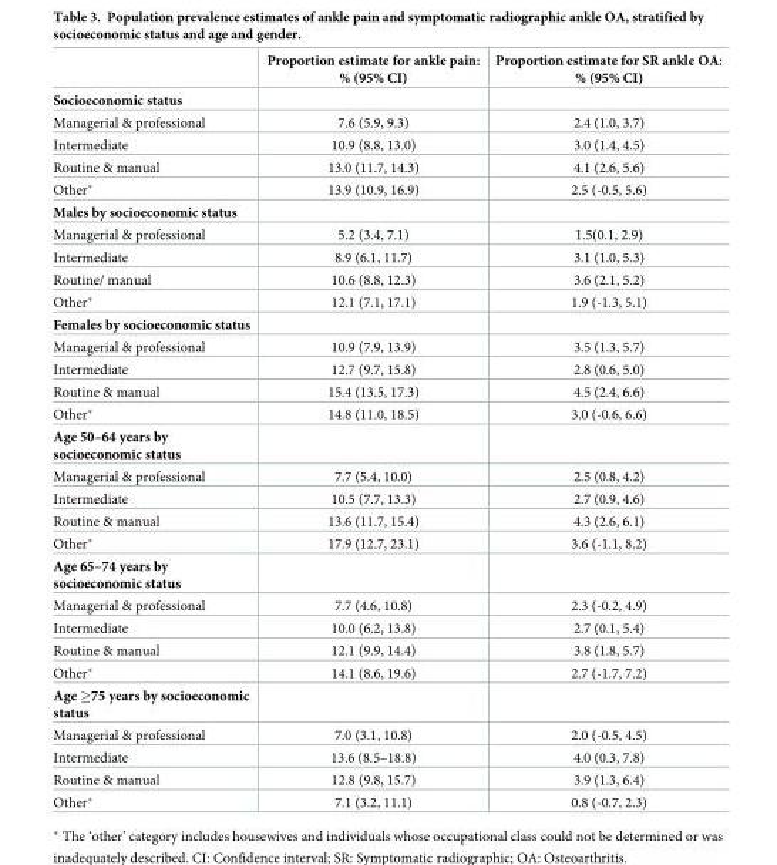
<table><thead><tr><td></td><td>Proportion estimate for ankle pain: % (95% CI)</td><td>Proportion estimate for SR ankle OA: % (95% CI)</td></tr></thead><tbody><tr><td colspan="3">Socioeconomic status</td></tr><tr><td>Managerial &amp; professional</td><td>7.6 (5.9, 9.3)</td><td>2.4 (1.0, 3.7)</td></tr><tr><td>Intermediate</td><td>10.9 (8.8, 13.0)</td><td>3.0 (1.4, 4.5)</td></tr><tr><td>Routine &amp; manual</td><td>13.0 (11.7, 14.3)</td><td>4.1 (2.6, 5.6)</td></tr><tr><td>Other*</td><td>13.9 (10.9, 16.9)</td><td>2.5 (-0.5, 5.6)</td></tr><tr><td colspan="3">Males by socioeconomic status</td></tr><tr><td>Managerial &amp; professional</td><td>5.2 (3.4, 7.1)</td><td>1.5(0.1, 2.9)</td></tr><tr><td>Intermediate</td><td>8.9 (6.1, 11.7)</td><td>3.1 (1.0, 5.3)</td></tr><tr><td>Routine/ manual</td><td>10.6 (8.8, 12.3)</td><td>3.6 (2.1, 5.2)</td></tr><tr><td>Other*</td><td>12.1 (7.1, 17.1)</td><td>1.9 (-1.3, 5.1)</td></tr><tr><td colspan="3">Females by socioeconomic status</td></tr><tr><td>Managerial &amp; professional</td><td>10.9 (7.9, 13.9)</td><td>3.5 (1.3, 5.7)</td></tr><tr><td>Intermediate</td><td>12.7 (9.7, 15.8)</td><td>2.8 (0.6, 5.0)</td></tr><tr><td>Routine &amp; manual</td><td>15.4 (13.5, 17.3)</td><td>4.5 (2.4, 6.6)</td></tr><tr><td>Other*</td><td>14.8 (11.0, 18.5)</td><td>3.0 (-0.6, 6.6)</td></tr><tr><td colspan="3">Age 50–64 years by socioeconomic status</td></tr><tr><td>Managerial &amp; professional</td><td>7.7 (5.4, 10.0)</td><td>2.5 (0.8, 4.2)</td></tr><tr><td>Intermediate</td><td>10.5 (7.7, 13.3)</td><td>2.7 (0.9, 4.6)</td></tr><tr><td>Routine &amp; manual</td><td>13.6 (11.7, 15.4)</td><td>4.3 (2.6, 6.1)</td></tr><tr><td>Other*</td><td>17.9 (12.7, 23.1)</td><td>3.6 (-1.1, 8.2)</td></tr><tr><td colspan="3">Age 65–74 years by socioeconomic status</td></tr><tr><td>Managerial &amp; professional</td><td>7.7 (4.6, 10.8)</td><td>2.3 (-0.2, 4.9)</td></tr><tr><td>Intermediate</td><td>10.0 (6.2, 13.8)</td><td>2.7 (0.1, 5.4)</td></tr><tr><td>Routine &amp; manual</td><td>12.1 (9.9, 14.4)</td><td>3.8 (1.8, 5.7)</td></tr><tr><td>Other*</td><td>14.1 (8.6, 19.6)</td><td>2.7 (-1.7, 7.2)</td></tr><tr><td colspan="3">Age ≥75 years by socioeconomic status</td></tr><tr><td>Managerial &amp; professional</td><td>7.0 (3.1, 10.8)</td><td>2.0 (-0.5, 4.5)</td></tr><tr><td>Intermediate</td><td>13.6 (8.5–18.8)</td><td>4.0 (0.3, 7.8)</td></tr><tr><td>Routine &amp; manual</td><td>12.8 (9.8, 15.7)</td><td>3.9 (1.3, 6.4)</td></tr><tr><td>Other*</td><td>7.1 (3.2, 11.1)</td><td>0.8 (-0.7, 2.3)</td></tr></tbody></table>